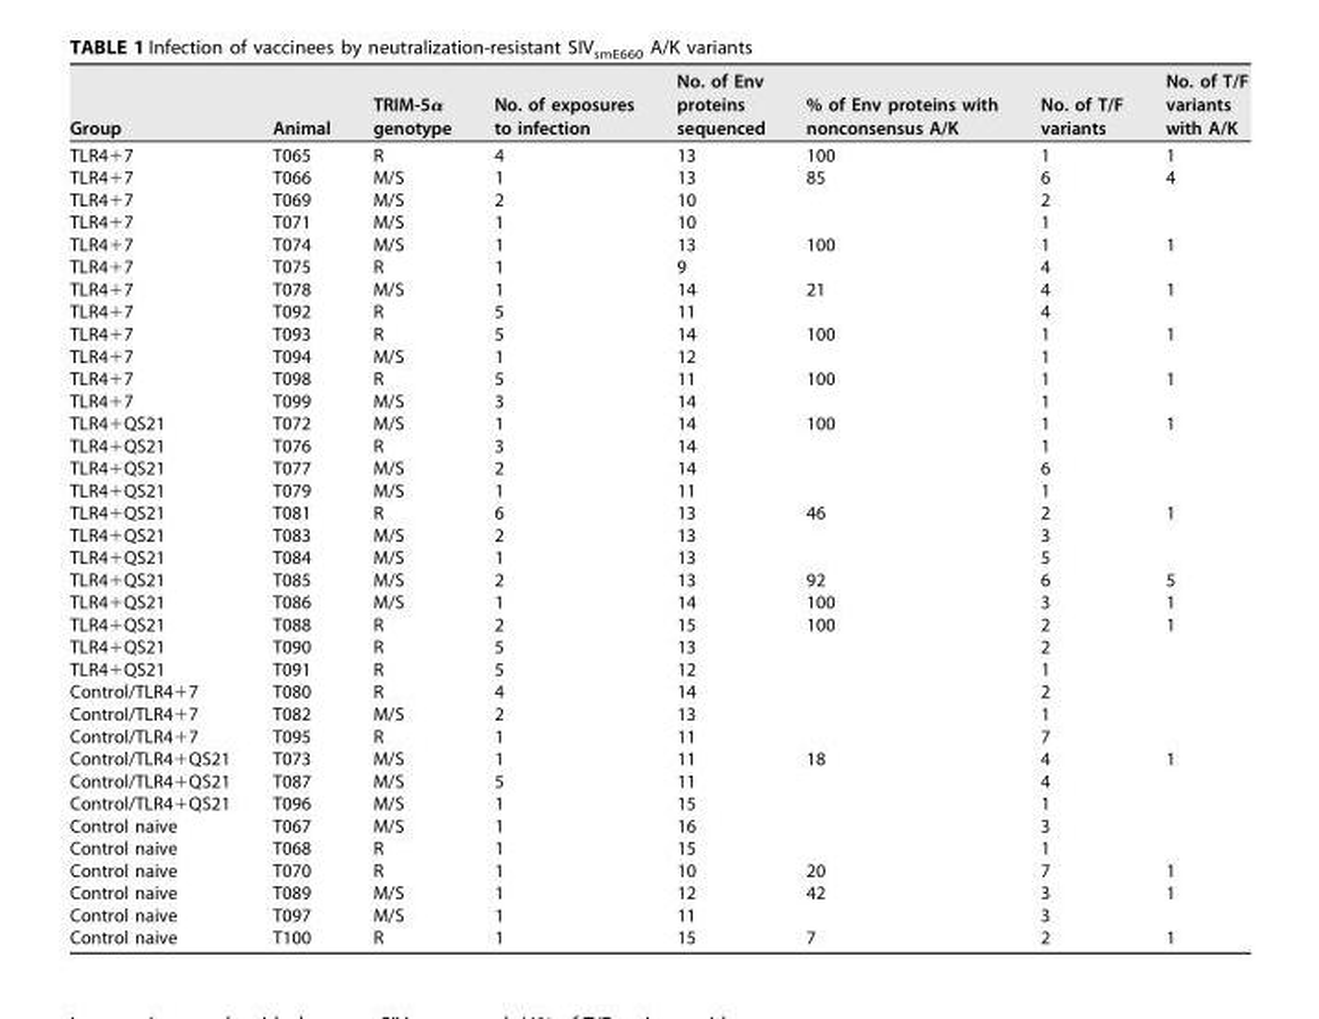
<table><thead><tr><td>Group</td><td>Animal</td><td>TRIM-5α genotype</td><td>No. of exposures to infection</td><td>No. of Env proteins sequenced</td><td>% of Env proteins with nonconsensus A/K</td><td>No. of T/F variants</td><td>No. of T/F variants with A/K</td></tr></thead><tbody><tr><td>TLR4+7</td><td>T065</td><td>R</td><td>4</td><td>13</td><td>100</td><td>1</td><td>1</td></tr><tr><td>TLR4+7</td><td>T066</td><td>M/S</td><td>1</td><td>13</td><td>85</td><td>6</td><td>4</td></tr><tr><td>TLR4+7</td><td>T069</td><td>M/S</td><td>2</td><td>10</td><td></td><td>2</td><td></td></tr><tr><td>TLR4+7</td><td>T071</td><td>M/S</td><td>1</td><td>10</td><td></td><td>1</td><td></td></tr><tr><td>TLR4+7</td><td>T074</td><td>M/S</td><td>1</td><td>13</td><td>100</td><td>1</td><td>1</td></tr><tr><td>TLR4+7</td><td>T075</td><td>R</td><td>1</td><td>9</td><td></td><td>4</td><td></td></tr><tr><td>TLR4+7</td><td>T078</td><td>M/S</td><td>1</td><td>14</td><td>21</td><td>4</td><td>1</td></tr><tr><td>TLR4+7</td><td>T092</td><td>R</td><td>5</td><td>11</td><td></td><td>4</td><td></td></tr><tr><td>TLR4+7</td><td>T093</td><td>R</td><td>5</td><td>14</td><td>100</td><td>1</td><td>1</td></tr><tr><td>TLR4+7</td><td>T094</td><td>M/S</td><td>1</td><td>12</td><td></td><td>1</td><td></td></tr><tr><td>TLR4+7</td><td>T098</td><td>R</td><td>5</td><td>11</td><td>100</td><td>1</td><td>1</td></tr><tr><td>TLR4+7</td><td>T099</td><td>M/S</td><td>3</td><td>14</td><td></td><td>1</td><td></td></tr><tr><td>TLR4+QS21</td><td>T072</td><td>M/S</td><td>1</td><td>14</td><td>100</td><td>1</td><td>1</td></tr><tr><td>TLR4+QS21</td><td>T076</td><td>R</td><td>3</td><td>14</td><td></td><td>1</td><td></td></tr><tr><td>TLR4+QS21</td><td>T077</td><td>M/S</td><td>2</td><td>14</td><td></td><td>6</td><td></td></tr><tr><td>TLR4+QS21</td><td>T079</td><td>M/S</td><td>1</td><td>11</td><td></td><td>1</td><td></td></tr><tr><td>TLR4+QS21</td><td>T081</td><td>R</td><td>6</td><td>13</td><td>46</td><td>2</td><td>1</td></tr><tr><td>TLR4+QS21</td><td>T083</td><td>M/S</td><td>2</td><td>13</td><td></td><td>3</td><td></td></tr><tr><td>TLR4+QS21</td><td>T084</td><td>M/S</td><td>1</td><td>13</td><td></td><td>5</td><td></td></tr><tr><td>TLR4+QS21</td><td>T085</td><td>M/S</td><td>2</td><td>13</td><td>92</td><td>6</td><td>5</td></tr><tr><td>TLR4+QS21</td><td>T086</td><td>M/S</td><td>1</td><td>14</td><td>100</td><td>3</td><td>1</td></tr><tr><td>TLR4+QS21</td><td>T088</td><td>R</td><td>2</td><td>15</td><td>100</td><td>2</td><td>1</td></tr><tr><td>TLR4+QS21</td><td>T090</td><td>R</td><td>5</td><td>13</td><td></td><td>2</td><td></td></tr><tr><td>TLR4+QS21</td><td>T091</td><td>R</td><td>5</td><td>12</td><td></td><td>1</td><td></td></tr><tr><td>Control/TLR4+7</td><td>T080</td><td>R</td><td>4</td><td>14</td><td></td><td>2</td><td></td></tr><tr><td>Control/TLR4+7</td><td>T082</td><td>M/S</td><td>2</td><td>13</td><td></td><td>1</td><td></td></tr><tr><td>Control/TLR4+7</td><td>T095</td><td>R</td><td>1</td><td>11</td><td></td><td>7</td><td></td></tr><tr><td>Control/TLR4+QS21</td><td>T073</td><td>M/S</td><td>1</td><td>11</td><td>18</td><td>4</td><td>1</td></tr><tr><td>Control/TLR4+QS21</td><td>T087</td><td>M/S</td><td>5</td><td>11</td><td></td><td>4</td><td></td></tr><tr><td>Control/TLR4+QS21</td><td>T096</td><td>M/S</td><td>1</td><td>15</td><td></td><td>1</td><td></td></tr><tr><td>Control naive</td><td>T067</td><td>M/S</td><td>1</td><td>16</td><td></td><td>3</td><td></td></tr><tr><td>Control naive</td><td>T068</td><td>R</td><td>1</td><td>15</td><td></td><td>1</td><td></td></tr><tr><td>Control naive</td><td>T070</td><td>R</td><td>1</td><td>10</td><td>20</td><td>7</td><td>1</td></tr><tr><td>Control naive</td><td>T089</td><td>M/S</td><td>1</td><td>12</td><td>42</td><td>3</td><td>1</td></tr><tr><td>Control naive</td><td>T097</td><td>M/S</td><td>1</td><td>11</td><td></td><td>3</td><td></td></tr><tr><td>Control naive</td><td>T100</td><td>R</td><td>1</td><td>15</td><td>7</td><td>2</td><td>1</td></tr></tbody></table>